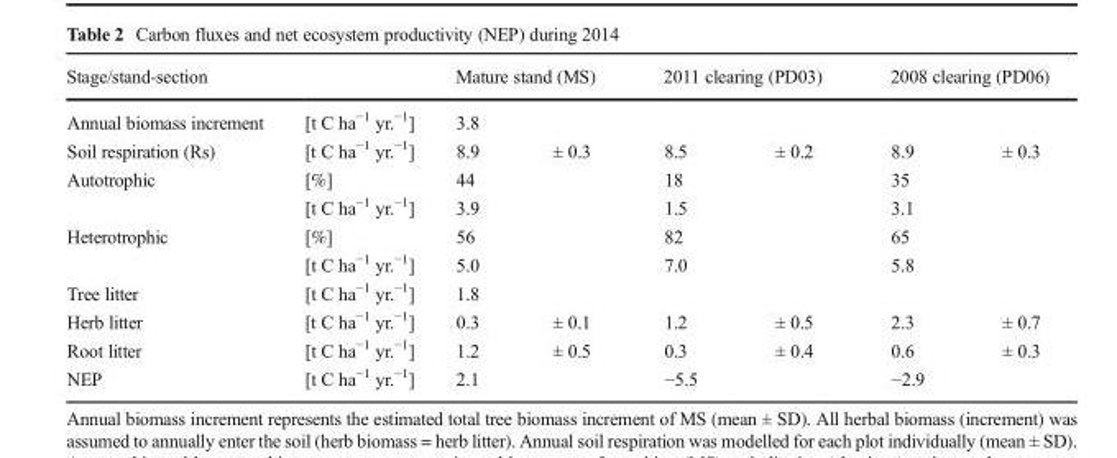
<table><thead><tr><td rowspan="2">Stage/stand-section Annual biomass increment</td><td rowspan="2">[t C ha<sup>−1</sup> yr.<sup>−1</sup>]</td><td colspan="2">Mature stand (MS)</td><td colspan="2">2011 clearing (PD03)</td><td colspan="2">2008 clearing (PD06)</td></tr><tr><td>3.8</td><td></td><td></td><td></td><td></td><td></td></tr></thead><tbody><tr><td>Soil respiration (Rs)</td><td>[t C ha<sup>−1</sup> yr.<sup>−1</sup>]</td><td>8.9</td><td>± 0.3</td><td>8.5</td><td>± 0.2</td><td>8.9</td><td>± 0.3</td></tr><tr><td rowspan="2">Autotrophic</td><td>[%]</td><td>44</td><td></td><td>18</td><td></td><td>35</td><td></td></tr><tr><td>[t C ha<sup>−1</sup> yr.<sup>−1</sup>]</td><td>3.9</td><td></td><td>1.5</td><td></td><td>3.1</td><td></td></tr><tr><td rowspan="2">Heterotrophic</td><td>[%]</td><td>56</td><td></td><td>82</td><td></td><td>65</td><td></td></tr><tr><td>[t C ha<sup>−1</sup> yr.<sup>−1</sup>]</td><td>5.0</td><td></td><td>7.0</td><td></td><td>5.8</td><td></td></tr><tr><td>Tree litter</td><td>[t C ha<sup>−1</sup> yr.<sup>−1</sup>]</td><td>1.8</td><td></td><td></td><td></td><td></td><td></td></tr><tr><td>Herb litter</td><td>[t C ha<sup>−1</sup> yr.<sup>−1</sup>]</td><td>0.3</td><td>± 0.1</td><td>1.2</td><td>± 0.5</td><td>2.3</td><td>± 0.7</td></tr><tr><td>Root litter</td><td>[t C ha<sup>−1</sup> yr.<sup>−1</sup>]</td><td>1.2</td><td>± 0.5</td><td>0.3</td><td>± 0.4</td><td>0.6</td><td>± 0.3</td></tr><tr><td>NEP</td><td>[t C ha<sup>−1</sup> yr.<sup>−1</sup>]</td><td>2.1</td><td></td><td>−5.5</td><td></td><td>−2.9</td><td></td></tr></tbody></table>